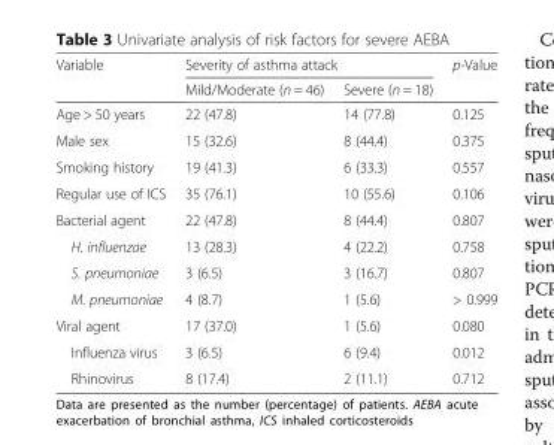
<table><thead><tr><td rowspan="2">Variable</td><td colspan="2">Severity of asthma attack</td><td rowspan="2">p-Value</td></tr><tr><td>Mild/Moderate (n = 46)</td><td>Severe (n = 18)</td></tr></thead><tbody><tr><td>Age &gt; 50 years</td><td>22 (47.8)</td><td>14 (77.8)</td><td>0.125</td></tr><tr><td>Male sex</td><td>15 (32.6)</td><td>8 (44.4)</td><td>0.375</td></tr><tr><td>Smoking history</td><td>19 (41.3)</td><td>6 (33.3)</td><td>0.557</td></tr><tr><td>Regular use of ICS</td><td>35 (76.1)</td><td>10 (55.6)</td><td>0.106</td></tr><tr><td>Bacterial agent</td><td>22 (47.8)</td><td>8 (44.4)</td><td>0.807</td></tr><tr><td>H. influenzae</td><td>13 (28.3)</td><td>4 (22.2)</td><td>0.758</td></tr><tr><td>S. pneumoniae</td><td>3 (6.5)</td><td>3 (16.7)</td><td>0.807</td></tr><tr><td>M. pneumoniae</td><td>4 (8.7)</td><td>1 (5.6)</td><td>&gt; 0.999</td></tr><tr><td>Viral agent</td><td>17 (37.0)</td><td>1 (5.6)</td><td>0.080</td></tr><tr><td>Influenza virus</td><td>3 (6.5)</td><td>6 (9.4)</td><td>0.012</td></tr><tr><td>Rhinovirus</td><td>8 (17.4)</td><td>2 (11.1)</td><td>0.712</td></tr></tbody></table>